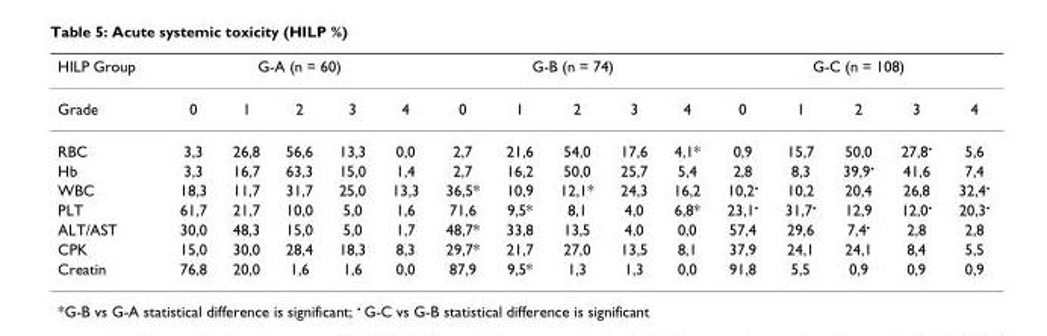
<table><thead><tr><td rowspan="2">HILP Group Grade</td><td colspan="5">G-A (n = 60)</td><td colspan="5">G-B (n = 74)</td><td colspan="5">G-C (n = 108)</td></tr><tr><td>0</td><td>1</td><td>2</td><td>3</td><td>4</td><td>0</td><td>1</td><td>2</td><td>3</td><td>4</td><td>0</td><td>1</td><td>2</td><td>3</td><td>4</td></tr></thead><tbody><tr><td>RBC</td><td>3,3</td><td>26,8</td><td>56,6</td><td>13,3</td><td>0,0</td><td>2,7</td><td>21,6</td><td>54,0</td><td>17,6</td><td>4,1*</td><td>0,9</td><td>15,7</td><td>50,0</td><td>27,8<sup>•</sup></td><td>5,6</td></tr><tr><td>Hb</td><td>3,3</td><td>16,7</td><td>63,3</td><td>15,0</td><td>1,4</td><td>2,7</td><td>16,2</td><td>50,0</td><td>25,7</td><td>5,4</td><td>2,8</td><td>8,3</td><td>39,9<sup>•</sup></td><td>41,6</td><td>7,4</td></tr><tr><td>WBC</td><td>18,3</td><td>11,7</td><td>31,7</td><td>25,0</td><td>13,3</td><td>36,5*</td><td>10,9</td><td>12,1*</td><td>24,3</td><td>16,2</td><td>10,2<sup>•</sup></td><td>10,2</td><td>20,4</td><td>26,8</td><td>32,4<sup>•</sup></td></tr><tr><td>PLT</td><td>61,7</td><td>21,7</td><td>10,0</td><td>5,0</td><td>1,6</td><td>71,6</td><td>9,5*</td><td>8,1</td><td>4,0</td><td>6,8*</td><td>23,1<sup>•</sup></td><td>31,7<sup>•</sup></td><td>12,9</td><td>12,0<sup>•</sup></td><td>20,3<sup>•</sup></td></tr><tr><td>ALT/AST</td><td>30,0</td><td>48,3</td><td>15,0</td><td>5,0</td><td>1,7</td><td>48,7*</td><td>33,8</td><td>13,5</td><td>4,0</td><td>0,0</td><td>57,4</td><td>29,6</td><td>7,4<sup>•</sup></td><td>2,8</td><td>2,8</td></tr><tr><td>CPK</td><td>15,0</td><td>30,0</td><td>28,4</td><td>18,3</td><td>8,3</td><td>29,7*</td><td>21,7</td><td>27,0</td><td>13,5</td><td>8,1</td><td>37,9</td><td>24,1</td><td>24,1</td><td>8,4</td><td>5,5</td></tr><tr><td>Creatin</td><td>76,8</td><td>20,0</td><td>1,6</td><td>1,6</td><td>0,0</td><td>87,9</td><td>9,5*</td><td>1,3</td><td>1,3</td><td>0,0</td><td>91,8</td><td>5,5</td><td>0,9</td><td>0,9</td><td>0,9</td></tr></tbody></table>